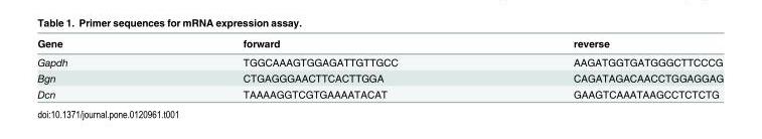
<table><thead><tr><td>Gene</td><td>forward</td><td>reverse</td></tr></thead><tbody><tr><td>Gapdh</td><td>TGGCAAAGTGGAGATTGTTGCC</td><td>AAGATGGTGATGGGCTTCCCG</td></tr><tr><td>Bgn</td><td>CTGAGGGAACTTCACTTGGA</td><td>CAGATAGACAACCTGGAGGAG</td></tr><tr><td>Dcn</td><td>TAAAAGGTCGTGAAAATACAT</td><td>GAAGTCAAATAAGCCTCTCTG</td></tr></tbody></table>